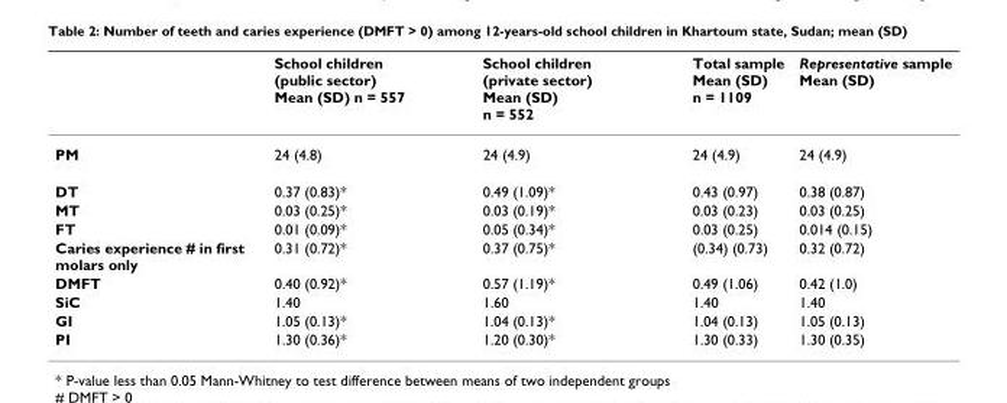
<table><thead><tr><td></td><td>School children (public sector) Mean (SD) n = 557</td><td>School children (private sector) Mean (SD) n = 552</td><td>Total sample Mean (SD) n = 1109</td><td>Representative sample Mean (SD)</td></tr></thead><tbody><tr><td>PM</td><td>24 (4.8)</td><td>24 (4.9)</td><td>24 (4.9)</td><td>24 (4.9)</td></tr><tr><td>DT</td><td>0.37 (0.83)*</td><td>0.49 (1.09)*</td><td>0.43 (0.97)</td><td>0.38 (0.87)</td></tr><tr><td>MT</td><td>0.03 (0.25)*</td><td>0.03 (0.19)*</td><td>0.03 (0.23)</td><td>0.03 (0.25)</td></tr><tr><td>FT</td><td>0.01 (0.09)*</td><td>0.05 (0.34)*</td><td>0.03 (0.25)</td><td>0.014 (0.15)</td></tr><tr><td>Caries experience # in first molars only</td><td>0.31 (0.72)*</td><td>0.37 (0.75)*</td><td>(0.34) (0.73)</td><td>0.32 (0.72)</td></tr><tr><td>DMFT</td><td>0.40 (0.92)*</td><td>0.57 (1.19)*</td><td>0.49 (1.06)</td><td>0.42 (1.0)</td></tr><tr><td>SiC</td><td>1.40</td><td>1.60</td><td>1.40</td><td>1.40</td></tr><tr><td>GI</td><td>1.05 (0.13)*</td><td>1.04 (0.13)*</td><td>1.04 (0.13)</td><td>1.05 (0.13)</td></tr><tr><td>PI</td><td>1.30 (0.36)*</td><td>1.20 (0.30)*</td><td>1.30 (0.33)</td><td>1.30 (0.35)</td></tr></tbody></table>